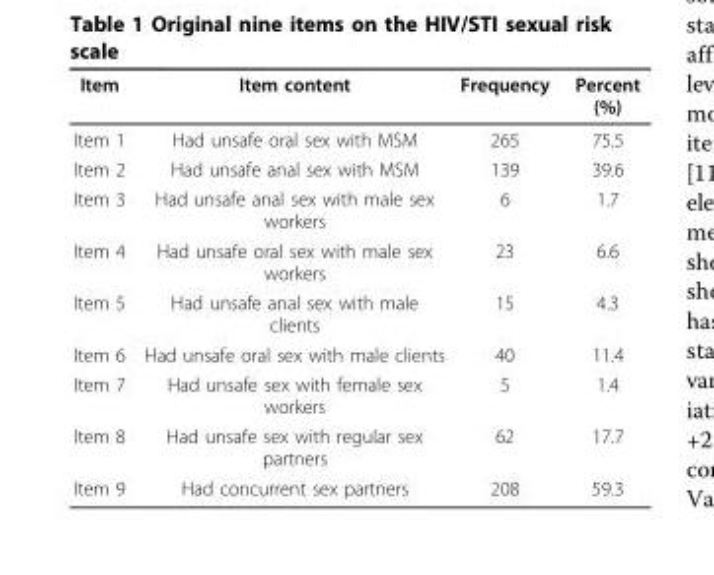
<table><thead><tr><td>Item</td><td>Item content</td><td>Frequency</td><td>Percent (%)</td></tr></thead><tbody><tr><td>Item 1</td><td>Had unsafe oral sex with MSM</td><td>265</td><td>75.5</td></tr><tr><td>Item 2</td><td>Had unsafe anal sex with MSM</td><td>139</td><td>39.6</td></tr><tr><td>Item 3</td><td>Had unsafe anal sex with male sex workers</td><td>6</td><td>1.7</td></tr><tr><td>Item 4</td><td>Had unsafe oral sex with male sex workers</td><td>23</td><td>6.6</td></tr><tr><td>Item 5</td><td>Had unsafe anal sex with male clients</td><td>15</td><td>4.3</td></tr><tr><td>Item 6</td><td>Had unsafe oral sex with male clients</td><td>40</td><td>11.4</td></tr><tr><td>Item 7</td><td>Had unsafe sex with female sex workers</td><td>5</td><td>1.4</td></tr><tr><td>Item 8</td><td>Had unsafe sex with regular sex partners</td><td>62</td><td>17.7</td></tr><tr><td>Item 9</td><td>Had concurrent sex partners</td><td>208</td><td>59.3</td></tr></tbody></table>